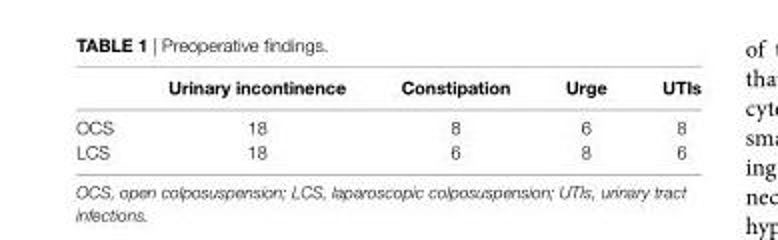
<table><thead><tr><td></td><td>Urinary incontinence</td><td>constipation</td><td>Urge</td><td>UTis</td></tr></thead><tbody><tr><td>OCS</td><td>18</td><td>8</td><td>6</td><td>8</td></tr><tr><td>LCS</td><td>18</td><td>6</td><td>8</td><td>6</td></tr></tbody></table>